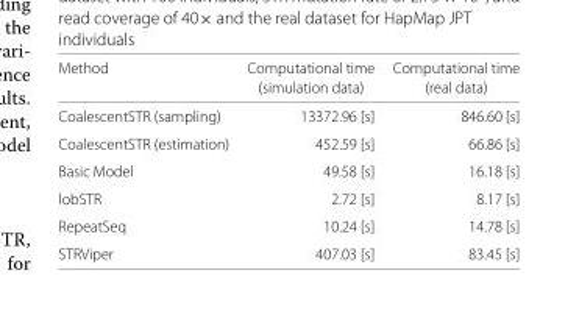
<table><thead><tr><td rowspan="2">Method</td><td rowspan="2">Computational time (simulation data)</td><td rowspan="2">Computational time (real data)</td></tr><tr></tr></thead><tbody><tr><td>CoalescentSTR (sampling)</td><td>13372.96 [s]</td><td>846.60 [s]</td></tr><tr><td>CoalescentSTR (estimation)</td><td>452.59 [s]</td><td>66.86 [s]</td></tr><tr><td>Basic Model</td><td>49.58 [s]</td><td>16.18 [s]</td></tr><tr><td>lobSTR</td><td>2.72 [s]</td><td>8.17 [s]</td></tr><tr><td>RepeatSeq</td><td>10.24 [s]</td><td>14.78 [s]</td></tr><tr><td>STRViper</td><td>407.03 [s]</td><td>83.45 [s]</td></tr></tbody></table>